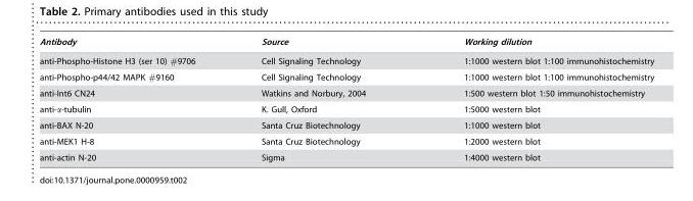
<table><thead><tr><td>Antibody</td><td>Source</td><td>Working dilution</td></tr></thead><tbody><tr><td>anti-Phospho-Histone H3 (ser 10) #9706</td><td>Cell Signaling Technology</td><td>1:1000 western blot 1:100 immunohistochemistry</td></tr><tr><td>anti-Phospho-p44/42 MAPK #9160</td><td>Cell Signaling Technology</td><td>1:1000 western blot 1:100 immunohistochemistry</td></tr><tr><td>anti-Int6 CN24</td><td>Watkins and Norbury, 2004</td><td>1:500 western blot 1:50 immunohistochemistry</td></tr><tr><td>anti-α-tubulin</td><td>K. Gull, Oxford</td><td>1:5000 western blot</td></tr><tr><td>anti-BAX N-20</td><td>Santa Cruz Biotechnology</td><td>1:1000 western blot</td></tr><tr><td>anti-MEK1 H-8</td><td>Santa Cruz Biotechnology</td><td>1:2000 western blot</td></tr><tr><td>anti-actin N-20</td><td>Sigma</td><td>1:4000 western blot</td></tr></tbody></table>